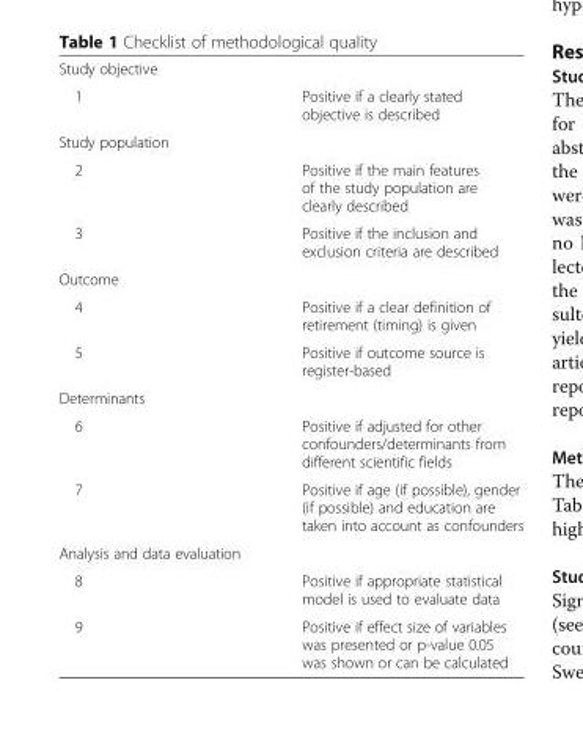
<table><tbody><tr><td colspan="2">Study objective</td></tr><tr><td>1</td><td>Positive if a clearly stated objective is described</td></tr><tr><td colspan="2">Study population</td></tr><tr><td>2</td><td>Positive if the main features of the study population are clearly described</td></tr><tr><td>3</td><td>Positive if the inclusion and exclusion criteria are described</td></tr><tr><td colspan="2">Outcome</td></tr><tr><td>4</td><td>Positive if a clear definition of retirement (timing) is given</td></tr><tr><td>5</td><td>Positive if outcome source is register-based</td></tr><tr><td colspan="2">Determinants</td></tr><tr><td>6</td><td>Positive if adjusted for other confounders/determinants from different scientific fields</td></tr><tr><td>7</td><td>Positive if age (if possible), gender (if possible) and education are taken into account as confounders</td></tr><tr><td colspan="2">Analysis and data evaluation</td></tr><tr><td>8</td><td>Positive if appropriate statistical model is used to evaluate data</td></tr><tr><td>9</td><td>Positive if effect size of variables was presented or p-value 0.05 was shown or can be calculated</td></tr></tbody></table>